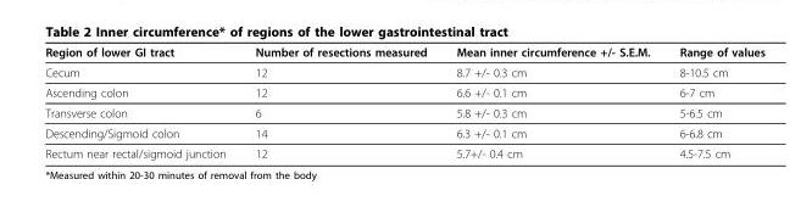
<table><thead><tr><td>Region of lower GI tract</td><td>Number of resections measured</td><td>Mean inner circumference +/- S.E.M.</td><td>Range of values</td></tr></thead><tbody><tr><td>Cecum</td><td>12</td><td>8.7 +/- 0.3 cm</td><td>8-10.5 cm</td></tr><tr><td>Ascending colon</td><td>12</td><td>6.6 +/- 0.1 cm</td><td>6-7 cm</td></tr><tr><td>Transverse colon</td><td>6</td><td>5.8 +/- 0.3 cm</td><td>5-6.5 cm</td></tr><tr><td>Descending/Sigmoid colon</td><td>14</td><td>6.3 +/- 0.1 cm</td><td>6-6.8 cm</td></tr><tr><td>Rectum near rectal/sigmoid junction</td><td>12</td><td>5.7+/- 0.4 cm</td><td>4.5-7.5 cm</td></tr></tbody></table>